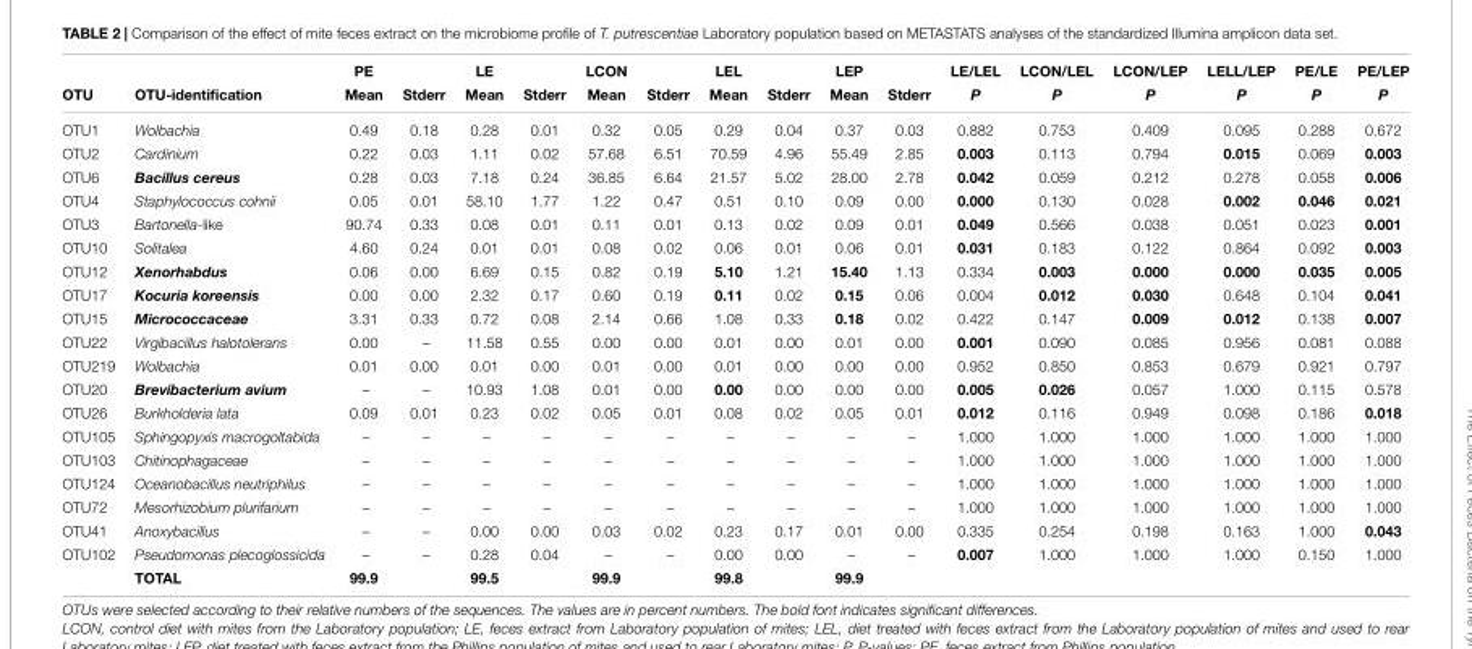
<table><thead><tr><td rowspan="2">OTU</td><td rowspan="2">OTU-identification</td><td rowspan="2">PE Mean</td><td rowspan="2">Stderr</td><td rowspan="2">LE Mean</td><td rowspan="2">Stderr</td><td rowspan="2">LCON Mean</td><td rowspan="2">Stderr</td><td rowspan="2">LEL Mean</td><td rowspan="2">Stderr</td><td rowspan="2">LEP Mean</td><td rowspan="2">Stderr</td><td rowspan="2">LE/LEL P</td><td rowspan="2">LCON/LEL P</td><td rowspan="2">LCON/LEP P</td><td rowspan="2">LELL/LEP P</td><td rowspan="2">PE/LE P</td><td rowspan="2">PE/LEP P</td></tr><tr></tr></thead><tbody><tr><td>OTU1</td><td>Wolbachia</td><td>0.49</td><td>0.18</td><td>0.28</td><td>0.01</td><td>0.32</td><td>0.05</td><td>0.29</td><td>0.04</td><td>0.37</td><td>0.03</td><td>0.882</td><td>0.753</td><td>0.409</td><td>0.095</td><td>0.288</td><td>0.672</td></tr><tr><td>OTU2</td><td>Cardinium</td><td>0.22</td><td>0.03</td><td>1.11</td><td>0.02</td><td>57.68</td><td>6.51</td><td>70.59</td><td>4.96</td><td>55.49</td><td>2.85</td><td>0.003</td><td>0.113</td><td>0.794</td><td>0.015</td><td>0.069</td><td>0.003</td></tr><tr><td>OTU6</td><td>Bacillus cereus</td><td>0.28</td><td>0.03</td><td>7.18</td><td>0.24</td><td>36.85</td><td>6.64</td><td>21.57</td><td>5.02</td><td>28.00</td><td>2.78</td><td>0.042</td><td>0.059</td><td>0.212</td><td>0.278</td><td>0.058</td><td>0.006</td></tr><tr><td>OTU4</td><td>Staphylococcus cohnii</td><td>0.05</td><td>0.01</td><td>58.10</td><td>1.77</td><td>1.22</td><td>0.47</td><td>0.51</td><td>0.10</td><td>0.09</td><td>0.00</td><td>0.000</td><td>0.130</td><td>0.028</td><td>0.002</td><td>0.046</td><td>0.021</td></tr><tr><td>OTU3</td><td>Bartonella-like</td><td>90.74</td><td>0.33</td><td>0.08</td><td>0.01</td><td>0.11</td><td>0.01</td><td>0.13</td><td>0.02</td><td>0.09</td><td>0.01</td><td>0.049</td><td>0.566</td><td>0.038</td><td>0.051</td><td>0.023</td><td>0.001</td></tr><tr><td>OTU10</td><td>Solitalea</td><td>4.60</td><td>0.24</td><td>0.01</td><td>0.01</td><td>0.08</td><td>0.02</td><td>0.06</td><td>0.01</td><td>0.06</td><td>0.01</td><td>0.031</td><td>0.183</td><td>0.122</td><td>0.864</td><td>0.092</td><td>0.003</td></tr><tr><td>OTU12</td><td>Xenorhabdus</td><td>0.06</td><td>0.00</td><td>6.69</td><td>0.15</td><td>0.82</td><td>0.19</td><td>5.10</td><td>1.21</td><td>15.40</td><td>1.13</td><td>0.334</td><td>0.003</td><td>0.000</td><td>0.000</td><td>0.035</td><td>0.005</td></tr><tr><td>OTU17</td><td>Kocuria koreensis</td><td>0.00</td><td>0.00</td><td>2.32</td><td>0.17</td><td>0.60</td><td>0.19</td><td>0.11</td><td>0.02</td><td>0.15</td><td>0.06</td><td>0.004</td><td>0.012</td><td>0.030</td><td>0.648</td><td>0.104</td><td>0.041</td></tr><tr><td>OTU15</td><td>Micrococcaceae</td><td>3.31</td><td>0.33</td><td>0.72</td><td>0.08</td><td>2.14</td><td>0.66</td><td>1.08</td><td>0.33</td><td>0.18</td><td>0.02</td><td>0.422</td><td>0.147</td><td>0.009</td><td>0.012</td><td>0.138</td><td>0.007</td></tr><tr><td>OTU22</td><td>Virgibacillus halotolerans</td><td>0.00</td><td>–</td><td>11.58</td><td>0.55</td><td>0.00</td><td>0.00</td><td>0.01</td><td>0.00</td><td>0.01</td><td>0.00</td><td>0.001</td><td>0.090</td><td>0.085</td><td>0.956</td><td>0.081</td><td>0.088</td></tr><tr><td>OTU219</td><td>Wolbachia</td><td>0.01</td><td>0.00</td><td>0.01</td><td>0.00</td><td>0.01</td><td>0.00</td><td>0.01</td><td>0.00</td><td>0.00</td><td>0.00</td><td>0.952</td><td>0.850</td><td>0.853</td><td>0.679</td><td>0.921</td><td>0.797</td></tr><tr><td>OTU20</td><td>Brevibacterium avium</td><td>–</td><td>–</td><td>10.93</td><td>1.08</td><td>0.01</td><td>0.00</td><td>0.00</td><td>0.00</td><td>0.00</td><td>0.00</td><td>0.005</td><td>0.026</td><td>0.057</td><td>1.000</td><td>0.115</td><td>0.578</td></tr><tr><td>OTU26</td><td>Burkholderia lata</td><td>0.09</td><td>0.01</td><td>0.23</td><td>0.02</td><td>0.05</td><td>0.01</td><td>0.08</td><td>0.02</td><td>0.05</td><td>0.01</td><td>0.012</td><td>0.116</td><td>0.949</td><td>0.098</td><td>0.186</td><td>0.018</td></tr><tr><td>OTU105</td><td>Sphingopyxis macrogoltabida</td><td>–</td><td>–</td><td>–</td><td>–</td><td>–</td><td>–</td><td>–</td><td>–</td><td>–</td><td>–</td><td>1.000</td><td>1.000</td><td>1.000</td><td>1.000</td><td>1.000</td><td>1.000</td></tr><tr><td>OTU103</td><td>Chitinophagaceae</td><td>–</td><td>–</td><td>–</td><td>–</td><td>–</td><td>–</td><td>–</td><td>–</td><td>–</td><td>–</td><td>1.000</td><td>1.000</td><td>1.000</td><td>1.000</td><td>1.000</td><td>1.000</td></tr><tr><td>OTU124</td><td>Oceanobacillus neutriphilus</td><td>–</td><td>–</td><td>–</td><td>–</td><td>–</td><td>–</td><td>–</td><td>–</td><td>–</td><td>–</td><td>1.000</td><td>1.000</td><td>1.000</td><td>1.000</td><td>1.000</td><td>1.000</td></tr><tr><td>OTU72</td><td>Mesorhizobium plurifarium</td><td>–</td><td>–</td><td>–</td><td>–</td><td>–</td><td>–</td><td>–</td><td>–</td><td>–</td><td>–</td><td>1.000</td><td>1.000</td><td>1.000</td><td>1.000</td><td>1.000</td><td>1.000</td></tr><tr><td>OTU41</td><td>Anoxybacillus</td><td>–</td><td>–</td><td>0.00</td><td>0.00</td><td>0.03</td><td>0.02</td><td>0.23</td><td>0.17</td><td>0.01</td><td>0.00</td><td>0.335</td><td>0.254</td><td>0.198</td><td>0.163</td><td>1.000</td><td>0.043</td></tr><tr><td rowspan="2">OTU102</td><td>Pseudomonas plecoglossicida</td><td>–</td><td>–</td><td>0.28</td><td>0.04</td><td>–</td><td>–</td><td>0.00</td><td>0.00</td><td>–</td><td>–</td><td>0.007</td><td>1.000</td><td>1.000</td><td>1.000</td><td>0.150</td><td>1.000</td></tr><tr><td>TOTAL</td><td>99.9</td><td></td><td>99.5</td><td></td><td>99.9</td><td></td><td>99.8</td><td></td><td>99.9</td><td></td><td></td><td></td><td></td><td></td><td></td><td></td></tr></tbody></table>